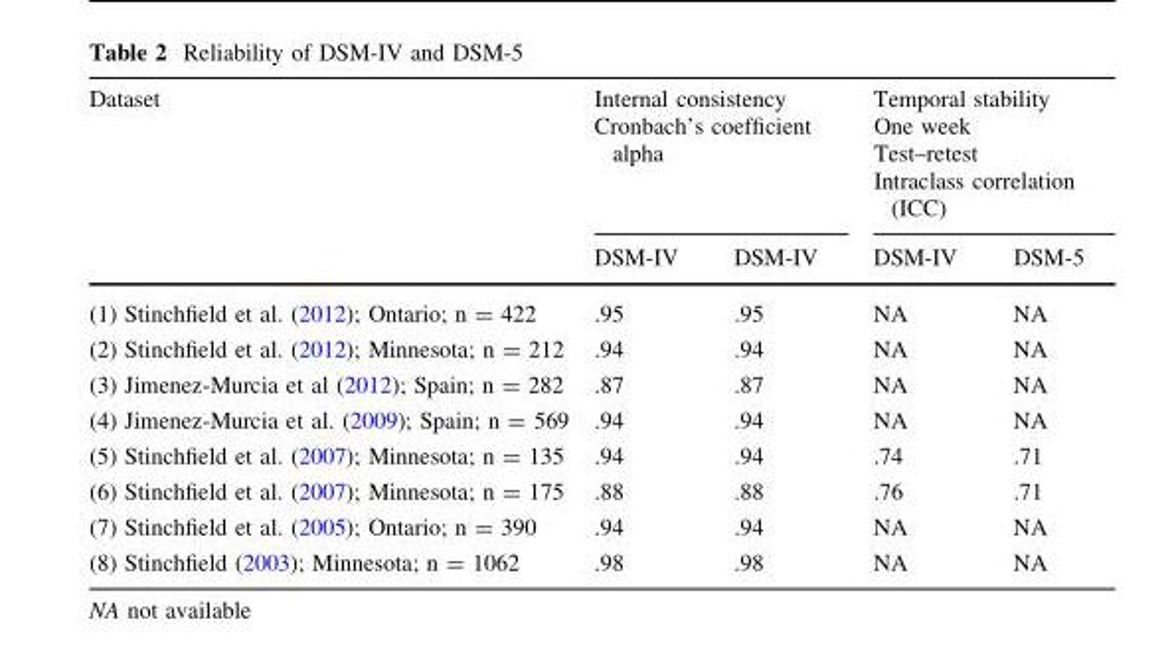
<table><thead><tr><td rowspan="2">Dataset</td><td colspan="2">Internal consistency Cronbach’s coefficient alpha</td><td colspan="2">Temporal stability One week Test–retest Intraclass correlation (ICC)</td></tr><tr><td>DSM-IV</td><td>DSM-IV</td><td>DSM-IV</td><td>DSM-5</td></tr></thead><tbody><tr><td>(1) Stinchfield et al. (2012); Ontario; n = 422</td><td>.95</td><td>.95</td><td>NA</td><td>NA</td></tr><tr><td>(2) Stinchfield et al. (2012); Minnesota; n = 212</td><td>.94</td><td>.94</td><td>NA</td><td>NA</td></tr><tr><td>(3) Jimenez-Murcia et al (2012); Spain; n = 282</td><td>.87</td><td>.87</td><td>NA</td><td>NA</td></tr><tr><td>(4) Jimenez-Murcia et al. (2009); Spain; n = 569</td><td>.94</td><td>.94</td><td>NA</td><td>NA</td></tr><tr><td>(5) Stinchfield et al. (2007); Minnesota; n = 135</td><td>.94</td><td>.94</td><td>.74</td><td>.71</td></tr><tr><td>(6) Stinchfield et al. (2007); Minnesota; n = 175</td><td>.88</td><td>.88</td><td>.76</td><td>.71</td></tr><tr><td>(7) Stinchfield et al. (2005); Ontario; n = 390</td><td>.94</td><td>.94</td><td>NA</td><td>NA</td></tr><tr><td>(8) Stinchfield (2003); Minnesota; n = 1062</td><td>.98</td><td>.98</td><td>NA</td><td>NA</td></tr></tbody></table>